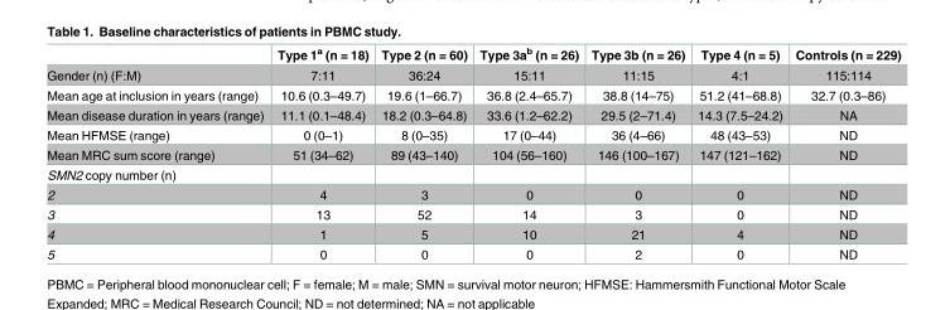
<table><thead><tr><td></td><td>Type 1<sup>a</sup> (n = 18)</td><td>Type 2 (n = 60)</td><td>Type 3a<sup>b</sup> (n = 26)</td><td>Type 3b (n = 26)</td><td>Type 4 (n = 5)</td><td>Controls (n = 229)</td></tr></thead><tbody><tr><td>Gender (n) (F:M)</td><td>7:11</td><td>36:24</td><td>15:11</td><td>11:15</td><td>4:1</td><td>115:114</td></tr><tr><td>Mean age at inclusion in years (range)</td><td>10.6 (0.3–49.7)</td><td>19.6 (1–66.7)</td><td>36.8 (2.4–65.7)</td><td>38.8 (14–75)</td><td>51.2 (41–68.8)</td><td>32.7 (0.3–86)</td></tr><tr><td>Mean disease duration in years (range)</td><td>11.1 (0.1–48.4)</td><td>18.2 (0.3–64.8)</td><td>33.6 (1.2–62.2)</td><td>29.5 (2–71.4)</td><td>14.3 (7.5–24.2)</td><td>NA</td></tr><tr><td>Mean HFMSE (range)</td><td>0 (0–1)</td><td>8 (0–35)</td><td>17 (0–44)</td><td>36 (4–66)</td><td>48 (43–53)</td><td>ND</td></tr><tr><td>Mean MRC sum score (range)</td><td>51 (34–62)</td><td>89 (43–140)</td><td>104 (56–160)</td><td>146 (100–167)</td><td>147 (121–162)</td><td>ND</td></tr><tr><td colspan="7">SMN2 copy number (n)</td></tr><tr><td>2</td><td>4</td><td>3</td><td>0</td><td>0</td><td>0</td><td>ND</td></tr><tr><td>3</td><td>13</td><td>52</td><td>14</td><td>3</td><td>0</td><td>ND</td></tr><tr><td>4</td><td>1</td><td>5</td><td>10</td><td>21</td><td>4</td><td>ND</td></tr><tr><td>5</td><td>0</td><td>0</td><td>0</td><td>2</td><td>0</td><td>ND</td></tr></tbody></table>